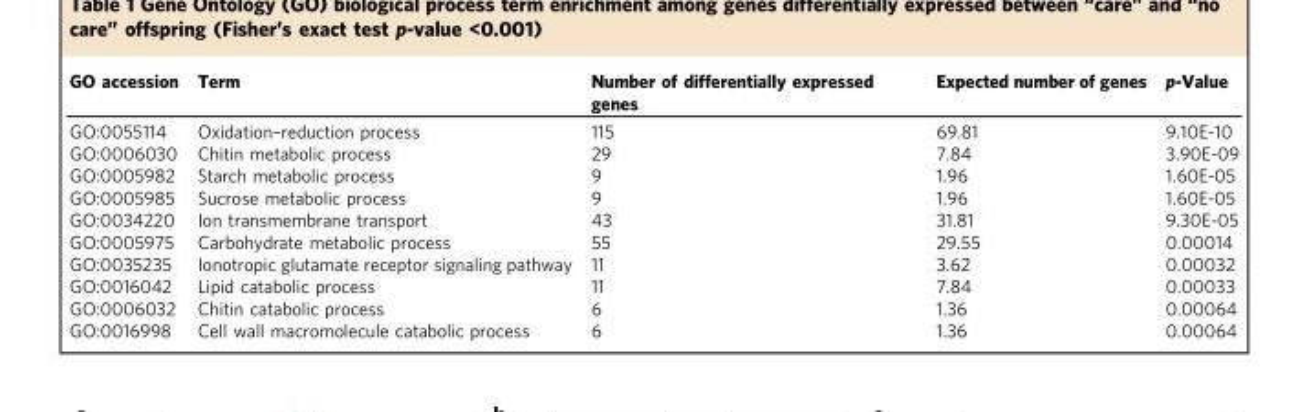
<table><thead><tr><td>GO accession</td><td>Term</td><td>Number of differentially expressed genes</td><td>Expected number of genes</td><td>p-Value</td></tr></thead><tbody><tr><td>GO:0055114</td><td>Oxidation–reduction process</td><td>115</td><td>69.81</td><td>9.10E-10</td></tr><tr><td>GO:0006030</td><td>Chitin metabolic process</td><td>29</td><td>7.84</td><td>3.90E-09</td></tr><tr><td>GO:0005982</td><td>Starch metabolic process</td><td>9</td><td>1.96</td><td>1.60E-05</td></tr><tr><td>GO:0005985</td><td>Sucrose metabolic process</td><td>9</td><td>1.96</td><td>1.60E-05</td></tr><tr><td>GO:0034220</td><td>Ion transmembrane transport</td><td>43</td><td>31.81</td><td>9.30E-05</td></tr><tr><td>GO:0005975</td><td>Carbohydrate metabolic process</td><td>55</td><td>29.55</td><td>0.00014</td></tr><tr><td>GO:0035235</td><td>Ionotropic glutamate receptor signaling pathway</td><td>11</td><td>3.62</td><td>0.00032</td></tr><tr><td>GO:0016042</td><td>Lipid catabolic process</td><td>11</td><td>7.84</td><td>0.00033</td></tr><tr><td>GO:0006032</td><td>Chitin catabolic process</td><td>6</td><td>1.36</td><td>0.00064</td></tr><tr><td>GO:0016998</td><td>Cell wall macromolecule catabolic process</td><td>6</td><td>1.36</td><td>0.00064</td></tr></tbody></table>